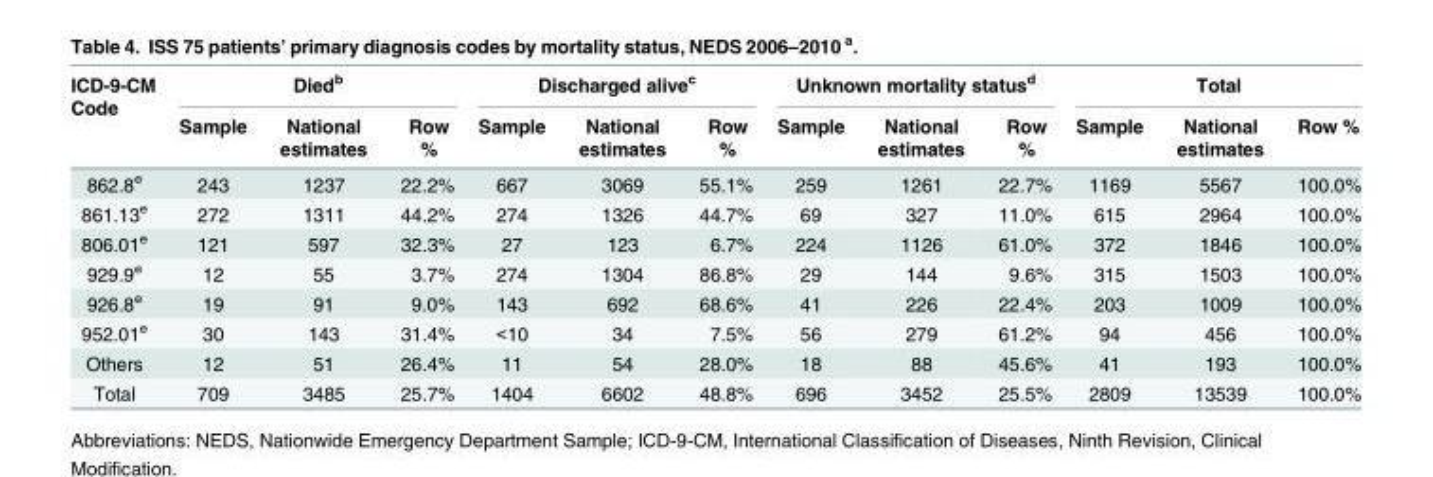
<table><thead><tr><td rowspan="2">ICD-9-CM Code</td><td colspan="3">Died<sup>b</sup></td><td colspan="3">Discharged alive<sup>c</sup></td><td colspan="3">Unknown mortality status<sup>d</sup></td><td colspan="3">Total</td></tr><tr><td>Sample</td><td>National estimates</td><td>Row %</td><td>Sample</td><td>National estimates</td><td>Row %</td><td>Sample</td><td>National estimates</td><td>Row %</td><td>Sample</td><td>National estimates</td><td>Row %</td></tr></thead><tbody><tr><td>862.8<sup>e</sup></td><td>243</td><td>1237</td><td>22.2%</td><td>667</td><td>3069</td><td>55.1%</td><td>259</td><td>1261</td><td>22.7%</td><td>1169</td><td>5567</td><td>100.0%</td></tr><tr><td>861.13<sup>e</sup></td><td>272</td><td>1311</td><td>44.2%</td><td>274</td><td>1326</td><td>44.7%</td><td>69</td><td>327</td><td>11.0%</td><td>615</td><td>2964</td><td>100.0%</td></tr><tr><td>806.01<sup>e</sup></td><td>121</td><td>597</td><td>32.3%</td><td>27</td><td>123</td><td>6.7%</td><td>224</td><td>1126</td><td>61.0%</td><td>372</td><td>1846</td><td>100.0%</td></tr><tr><td>929.9<sup>e</sup></td><td>12</td><td>55</td><td>3.7%</td><td>274</td><td>1304</td><td>86.8%</td><td>29</td><td>144</td><td>9.6%</td><td>315</td><td>1503</td><td>100.0%</td></tr><tr><td>926.8<sup>e</sup></td><td>19</td><td>91</td><td>9.0%</td><td>143</td><td>692</td><td>68.6%</td><td>41</td><td>226</td><td>22.4%</td><td>203</td><td>1009</td><td>100.0%</td></tr><tr><td>952.01<sup>e</sup></td><td>30</td><td>143</td><td>31.4%</td><td>&lt;10</td><td>34</td><td>7.5%</td><td>56</td><td>279</td><td>61.2%</td><td>94</td><td>456</td><td>100.0%</td></tr><tr><td>Others</td><td>12</td><td>51</td><td>26.4%</td><td>11</td><td>54</td><td>28.0%</td><td>18</td><td>88</td><td>45.6%</td><td>41</td><td>193</td><td>100.0%</td></tr><tr><td>Total</td><td>709</td><td>3485</td><td>25.7%</td><td>1404</td><td>6602</td><td>48.8%</td><td>696</td><td>3452</td><td>25.5%</td><td>2809</td><td>13539</td><td>100.0%</td></tr></tbody></table>